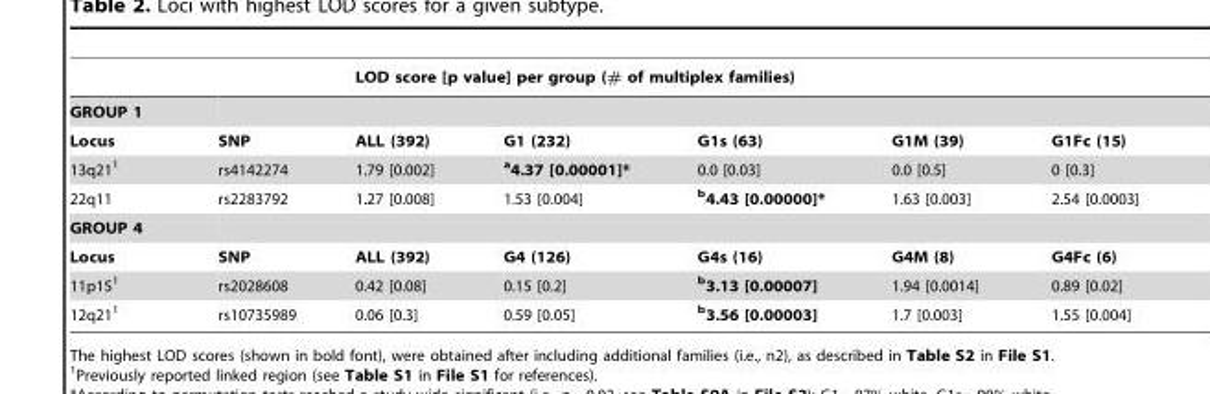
<table><thead><tr><td rowspan="3">GROUP 1 Locus</td><td></td><td colspan="5">LOD score [p value] per group (# of multiplex families)</td></tr><tr><td colspan="6"></td></tr><tr><td>SNP</td><td>ALL (392)</td><td>G1 (232)</td><td>G1s (63)</td><td>G1M (39)</td><td>G1Fc (15)</td></tr></thead><tbody><tr><td>13q21<sup>1</sup></td><td>rs4142274</td><td>1.79 [0.002]</td><td>a4.37 [0.00001]*</td><td>0.0 [0.03]</td><td>0.0 [0.5]</td><td>0 [0.3]</td></tr><tr><td>22q11</td><td>rs2283792</td><td>1.27 [0.008]</td><td>1.53 [0.004]</td><td>b4.43 [0.00000]*</td><td>1.63 [0.003]</td><td>2.54 [0.0003]</td></tr><tr><td colspan="7">GROUP 4</td></tr><tr><td>Locus</td><td>SNP</td><td>ALL (392)</td><td>G4 (126)</td><td>G4s (16)</td><td>G4M (8)</td><td>G4Fc (6)</td></tr><tr><td>11p15<sup>1</sup></td><td>rs2028608</td><td>0.42 [0.08]</td><td>0.15 [0.2]</td><td>b3.13 [0.00007]</td><td>1.94 [0.0014]</td><td>0.89 [0.02]</td></tr><tr><td>12q21<sup>1</sup></td><td>rs10735989</td><td>0.06 [0.3]</td><td>0.59 [0.05]</td><td>b3.56 [0.00003]</td><td>1.7 [0.003]</td><td>1.55 [0.004]</td></tr></tbody></table>